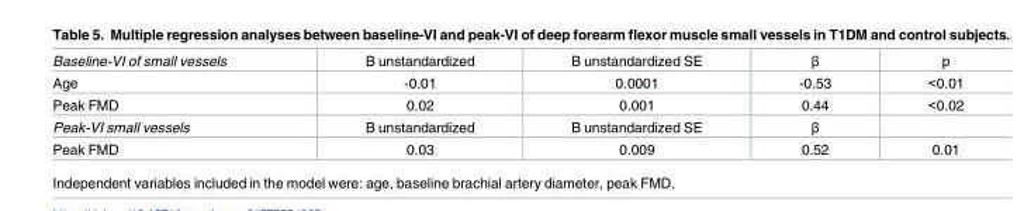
<table><tbody><tr><td>Baseline-VI of small vessels</td><td>B unstandardized</td><td>B unstandardized SE</td><td>β</td><td>p</td></tr><tr><td>Age</td><td>-0.01</td><td>0.0001</td><td>-0.53</td><td>&lt;0.01</td></tr><tr><td>Peak FMD</td><td>0.02</td><td>0.001</td><td>0.44</td><td>&lt;0.02</td></tr><tr><td>Peak-VI small vessels</td><td>B unstandardized</td><td>B unstandardized SE</td><td>β</td><td></td></tr><tr><td>Peak FMD</td><td>0.03</td><td>0.009</td><td>0.52</td><td>0.01</td></tr></tbody></table>